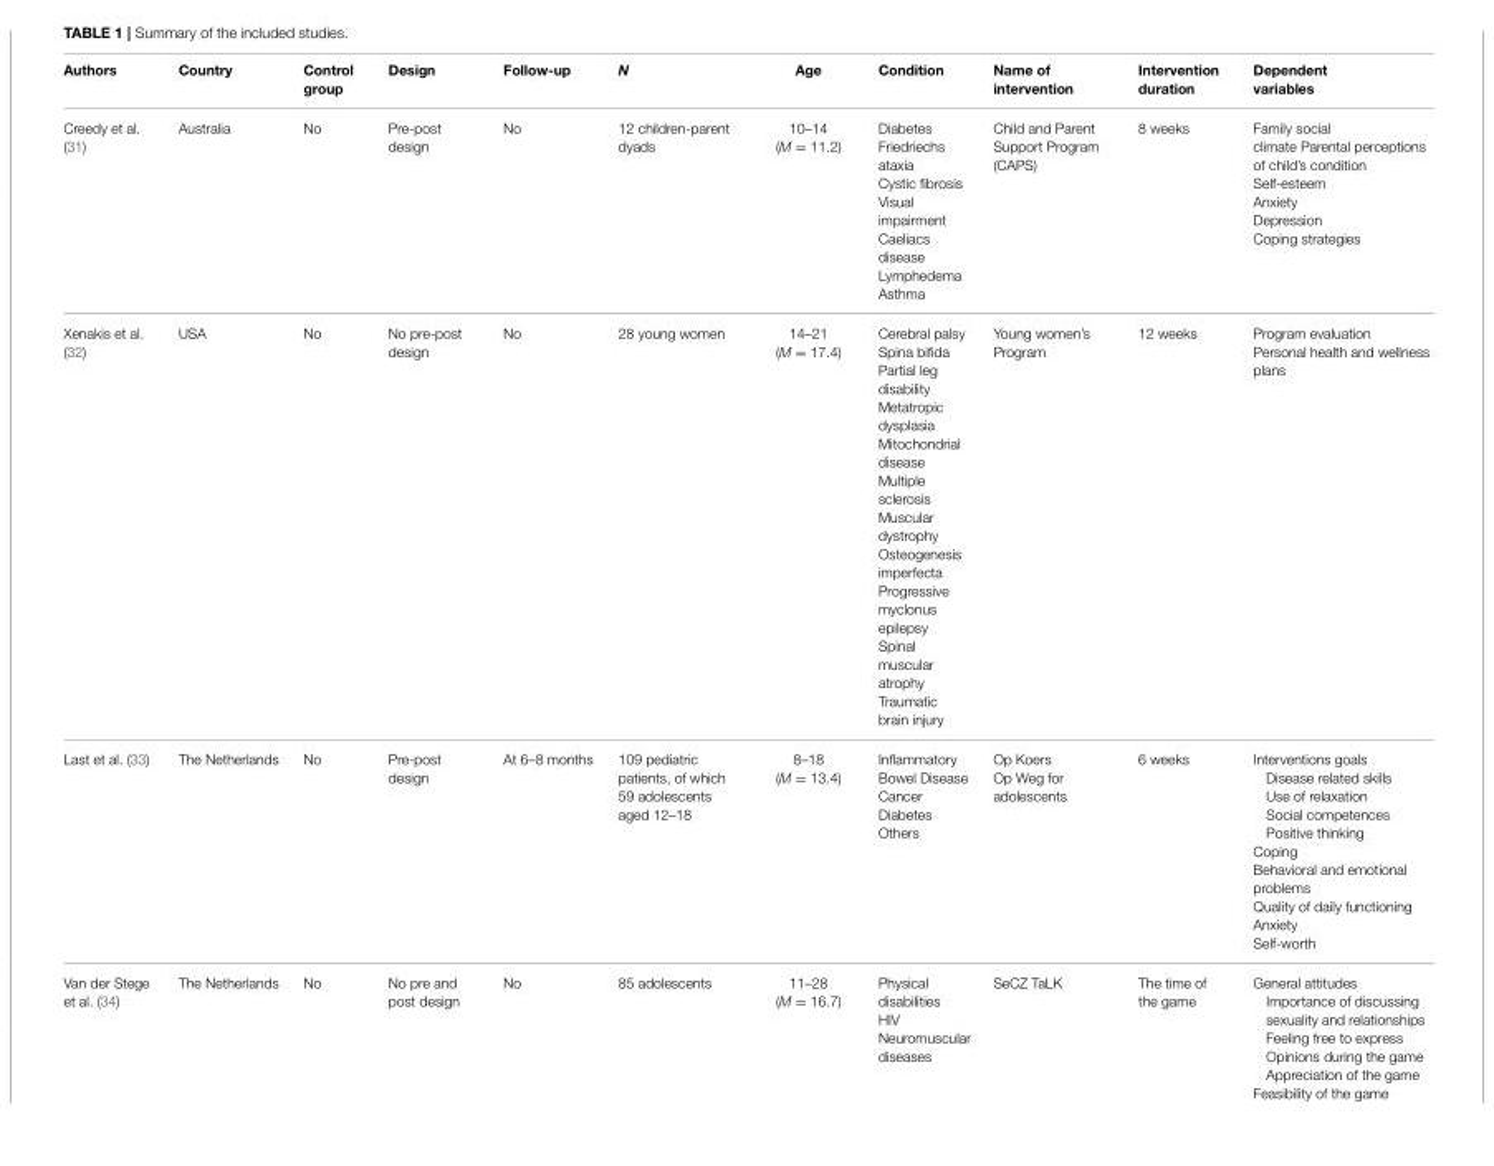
<table><thead><tr><td>Authors</td><td>Country</td><td>Control group</td><td>Design</td><td>Follow-up</td><td>N</td><td>Age</td><td>Condition</td><td>Name of intervention</td><td>Intervention duration</td><td>Dependent variables</td></tr></thead><tbody><tr><td>Creedy et al. (31)</td><td>Australia</td><td>No</td><td>Pre-post design</td><td>No</td><td>12 children-parent dyads</td><td>10–14 (M = 11.2)</td><td>Diabetes Friedriechs ataxia Cystic fibrosis Visual impairment Caeliacs disease Lymphedema Asthma</td><td>Child and Parent Support Program (CAPS)</td><td>8 weeks</td><td>Family social climate Parental perceptions of child’s condition Self-esteem Anxiety Depression Coping strategies</td></tr><tr><td>Xenakis et al. (32)</td><td>USA</td><td>No</td><td>No pre-post design</td><td>No</td><td>28 young women</td><td>14–21 (M = 17.4)</td><td>Cerebral palsy Spina bifida Partial leg disability Metatropic dysplasia Mitochondrial disease Multiple sclerosis Muscular dystrophy Osteogenesis imperfecta Progressive myclonus epilepsy Spinal muscular atrophy Traumatic brain injury</td><td>Young women’s Program</td><td>12 weeks</td><td>Program evaluation Personal health and wellness plans</td></tr><tr><td>Last et al. (33)</td><td>The Netherlands</td><td>No</td><td>Pre-post design</td><td>At 6–8 months</td><td>109 pediatric patients, of which 59 adolescents aged 12–18</td><td>8–18 (M = 13.4)</td><td>Inflammatory Bowel Disease Cancer Diabetes Others</td><td>Op Koers Op Weg for adolescents</td><td>6 weeks</td><td>Interventions goals Disease related skills Use of relaxation Social competences Positive thinking Coping Behavioral and emotional problems Quality of daily functioning Anxiety Self-worth</td></tr><tr><td>Van der Stege et al. (34)</td><td>The Netherlands</td><td>No</td><td>No pre and post design</td><td>No</td><td>85 adolescents</td><td>11–28 (M = 16.7)</td><td>Physical disabilities HIV Neuromuscular diseases</td><td>SeCZ TaLK</td><td>The time of the game</td><td>General attitudes Importance of discussing sexuality and relationships Feeling free to express Opinions during the game Appreciation of the game Feasibility of the game</td></tr></tbody></table>